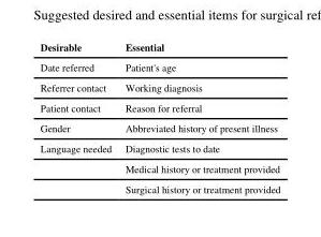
<table><thead><tr><td>Desirable</td><td>Essential</td></tr></thead><tbody><tr><td>Date referred</td><td>Patient&#x27;s age</td></tr><tr><td>Referrer contact</td><td>Working diagnosis</td></tr><tr><td>Patient contact</td><td>Reason for referral</td></tr><tr><td>Gender</td><td>Abbreviated history of present illness</td></tr><tr><td rowspan="3">Language needed</td><td>Diagnostic tests to date</td></tr><tr><td>Medical history or treatment provided</td></tr><tr><td>Surgical history or treatment provided</td></tr></tbody></table>